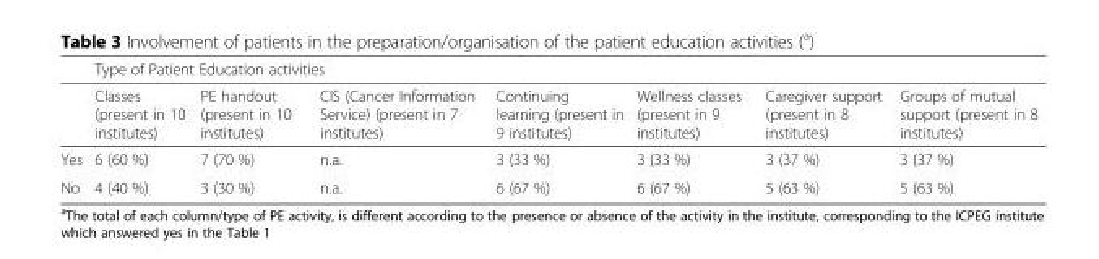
<table><thead><tr><td rowspan="2"></td><td colspan="7">Type of Patient Education activities</td></tr><tr><td>Classes (present in 10 institutes)</td><td>PE handout (present in 10 institutes)</td><td>CIS (Cancer Information Service) (present in 7 institutes)</td><td>Continuing learning (present in 9 institutes)</td><td>Wellness classes (present in 9 institutes)</td><td>Caregiver support (present in 8 institutes)</td><td>Groups of mutual support (present in 8 institutes)</td></tr></thead><tbody><tr><td>Yes</td><td>6 (60 %)</td><td>7 (70 %)</td><td>n.a.</td><td>3 (33 %)</td><td>3 (33 %)</td><td>3 (37 %)</td><td>3 (37 %)</td></tr><tr><td>No</td><td>4 (40 %)</td><td>3 (30 %)</td><td>n.a.</td><td>6 (67 %)</td><td>6 (67 %)</td><td>5 (63 %)</td><td>5 (63 %)</td></tr></tbody></table>